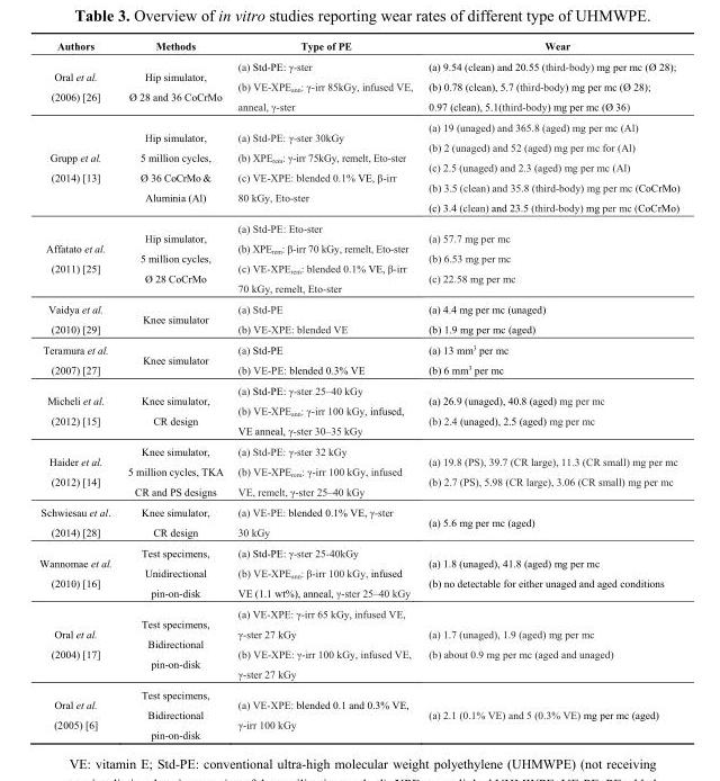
<table><thead><tr><td>Authors</td><td>Methods</td><td>Type of PE</td><td>Wear</td></tr></thead><tbody><tr><td>Oral et al. (2006) [26]</td><td>Hip simulator, Ø 28 and 36 CoCrMo</td><td>(a) Std-PE: γ-ster (b) VE-XPE<sub>ann</sub>: γ-irr 85kGy, infused VE, anneal, γ-ster</td><td>(a) 9.54 (clean) and 20.55 (third-body) mg per mc (Ø 28); (b) 0.78 (clean), 5.7 (third-body) mg per mc (Ø 28); 0.97 (clean), 5.1(third-body) mg per mc (Ø 36)</td></tr><tr><td>Grupp et al. (2014) [13]</td><td>Hip simulator, 5 million cycles, Ø 36 CoCrMo &amp; Aluminia (Al)</td><td>(a) Std-PE: γ-ster 30kGy (b) XPE<sub>rem</sub>: γ-irr 75kGy, remelt, Eto-ster (c) VE-XPE: blended 0.1% VE, β-irr 80 kGy, Eto-ster</td><td>(a) 19 (unaged) and 365.8 (aged) mg per mc (Al) (b) 2 (unaged) and 52 (aged) mg per mc for (Al) (c) 2.5 (unaged) and 2.3 (aged) mg per mc (Al) (b) 3.5 (clean) and 35.8 (third-body) mg per mc (CoCrMo) (c) 3.4 (clean) and 23.5 (third-body) mg per mc (CoCrMo)</td></tr><tr><td>Affatato et al. (2011) [25]</td><td>Hip simulator, 5 million cycles, Ø 28 CoCrMo</td><td>(a) Std-PE: Eto-ster (b) XPE<sub>rem</sub>: β-irr 70 kGy, remelt, Eto-ster (c) VE-XPE<sub>rem</sub>: blended 0.1% VE, β-irr 70 kGy, remelt, Eto-ster</td><td>(a) 57.7 mg per mc (b) 6.53 mg per mc (c) 22.58 mg per mc</td></tr><tr><td>Vaidya et al. (2010) [29]</td><td>Knee simulator</td><td>(a) Std-PE (b) VE-XPE: blended VE</td><td>(a) 4.4 mg per mc (unaged) (b) 1.9 mg per mc (aged)</td></tr><tr><td>Teramura et al. (2007) [27]</td><td>Knee simulator</td><td>(a) Std-PE (b) VE-PE: blended 0.3% VE</td><td>(a) 13 mm<sup>3</sup> per mc (b) 6 mm<sup>3</sup> per mc</td></tr><tr><td>Micheli et al. (2012) [15]</td><td>Knee simulator, CR design</td><td>(a) Std-PE: γ-ster 25–40 kGy (b) VE-XPE<sub>ann</sub>: γ-irr 100 kGy, infused, VE anneal, γ-ster 30–35 kGy</td><td>(a) 26.9 (unaged), 40.8 (aged) mg per mc (b) 2.4 (unaged), 2.5 (aged) mg per mc</td></tr><tr><td>Haider et al. (2012) [14]</td><td>Knee simulator, 5 million cycles, TKA CR and PS designs</td><td>(a) Std-PE: γ-ster 32 kGy (b) VE-XPE<sub>rem</sub>: γ-irr 100 kGy, infused VE, remelt, γ-ster 25–40 kGy</td><td>(a) 19.8 (PS), 39.7 (CR large), 11.3 (CR small) mg per mc (b) 2.7 (PS), 5.98 (CR large), 3.06 (CR small) mg per mc</td></tr><tr><td>Schwiesau et al. (2014) [28]</td><td>Knee simulator, CR design</td><td>(a) VE-PE: blended 0.1% VE, γ-ster 30 kGy</td><td>(a) 5.6 mg per mc (aged)</td></tr><tr><td>Wannomae et al. (2010) [16]</td><td>Test specimens, Unidirectional pin-on-disk</td><td>(a) Std-PE: γ-ster 25-40kGy (b) VE-XPE<sub>ann</sub>: β-irr 100 kGy, infused VE (1.1 wt%), anneal, γ-ster 25–40 kGy</td><td>(a) 1.8 (unaged), 41.8 (aged) mg per mc (b) no detectable for either unaged and aged conditions</td></tr><tr><td>Oral et al. (2004) [17]</td><td>Test specimens, Bidirectional pin-on-disk</td><td>(a) VE-XPE: γ-irr 65 kGy, infused VE, γ-ster 27 kGy (b) VE-XPE: γ-irr 100 kGy, infused VE, γ-ster 27 kGy</td><td>(a) 1.7 (unaged), 1.9 (aged) mg per mc (b) about 0.9 mg per mc (aged and unaged)</td></tr><tr><td>Oral et al. (2005) [6]</td><td>Test specimens, Bidirectional pin-on-disk</td><td>(a) VE-XPE: blended 0.1 and 0.3% VE, γ-irr 100 kGy</td><td>(a) 2.1 (0.1% VE) and 5 (0.3% VE) mg per mc (aged)</td></tr></tbody></table>